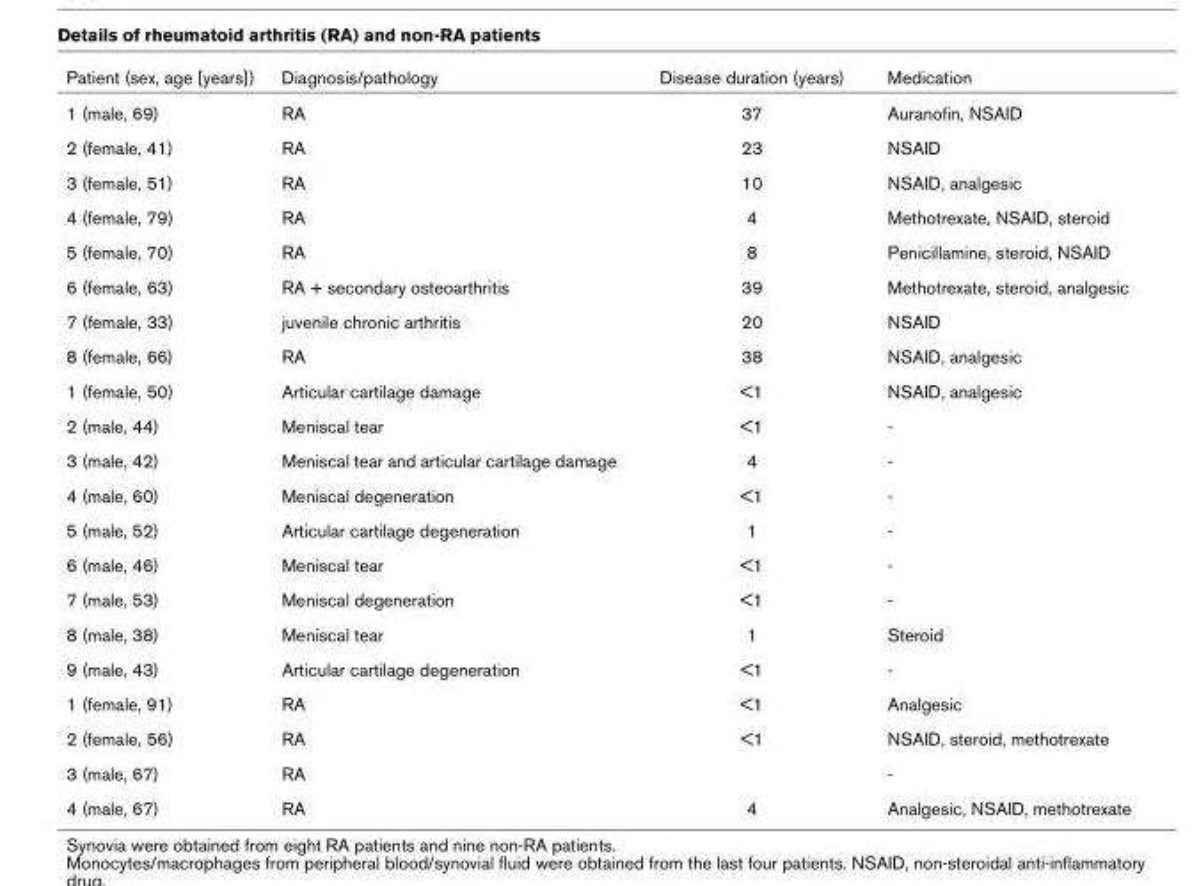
<table><thead><tr><td>Patient (sex, age [years])</td><td>Diagnosis/pathology</td><td>Disease duration (years)</td><td>Medication</td></tr></thead><tbody><tr><td>1 (male, 69)</td><td>RA</td><td>37</td><td>Auranofin, NSAID</td></tr><tr><td>2 (female, 41)</td><td>RA</td><td>23</td><td>NSAID</td></tr><tr><td>3 (female, 51)</td><td>RA</td><td>10</td><td>NSAID, analgesic</td></tr><tr><td>4 (female, 79)</td><td>RA</td><td>4</td><td>Methotrexate, NSAID, steroid</td></tr><tr><td>5 (female, 70)</td><td>RA</td><td>8</td><td>Penicillamine, steroid, NSAID</td></tr><tr><td>6 (female, 63)</td><td>RA + secondary osteoarthritis</td><td>39</td><td>Methotrexate, steroid, analgesic</td></tr><tr><td>7 (female, 33)</td><td>juvenile chronic arthritis</td><td>20</td><td>NSAID</td></tr><tr><td>8 (female, 66)</td><td>RA</td><td>38</td><td>NSAID, analgesic</td></tr><tr><td>1 (female, 50)</td><td>Articular cartilage damage</td><td>&lt;1</td><td>NSAID, analgesic</td></tr><tr><td>2 (male, 44)</td><td>Meniscal tear</td><td>&lt;1</td><td>-</td></tr><tr><td>3 (male, 42)</td><td>Meniscal tear and articular cartilage damage</td><td>4</td><td>-</td></tr><tr><td>4 (male, 60)</td><td>Meniscal degeneration</td><td>&lt;1</td><td>-</td></tr><tr><td>5 (male, 52)</td><td>Articular cartilage degeneration</td><td>1</td><td>-</td></tr><tr><td>6 (male, 46)</td><td>Meniscal tear</td><td>&lt;1</td><td>-</td></tr><tr><td>7 (male, 53)</td><td>Meniscal degeneration</td><td>&lt;1</td><td>-</td></tr><tr><td>8 (male, 38)</td><td>Meniscal tear</td><td>1</td><td>Steroid</td></tr><tr><td>9 (male, 43)</td><td>Articular cartilage degeneration</td><td>&lt;1</td><td>-</td></tr><tr><td>1 (female, 91)</td><td>RA</td><td>&lt;1</td><td>Analgesic</td></tr><tr><td>2 (female, 56)</td><td>RA</td><td>&lt;1</td><td>NSAID, steroid, methotrexate</td></tr><tr><td>3 (male, 67)</td><td>RA</td><td></td><td>-</td></tr><tr><td>4 (male, 67)</td><td>RA</td><td>4</td><td>Analgesic, NSAID, methotrexate</td></tr></tbody></table>